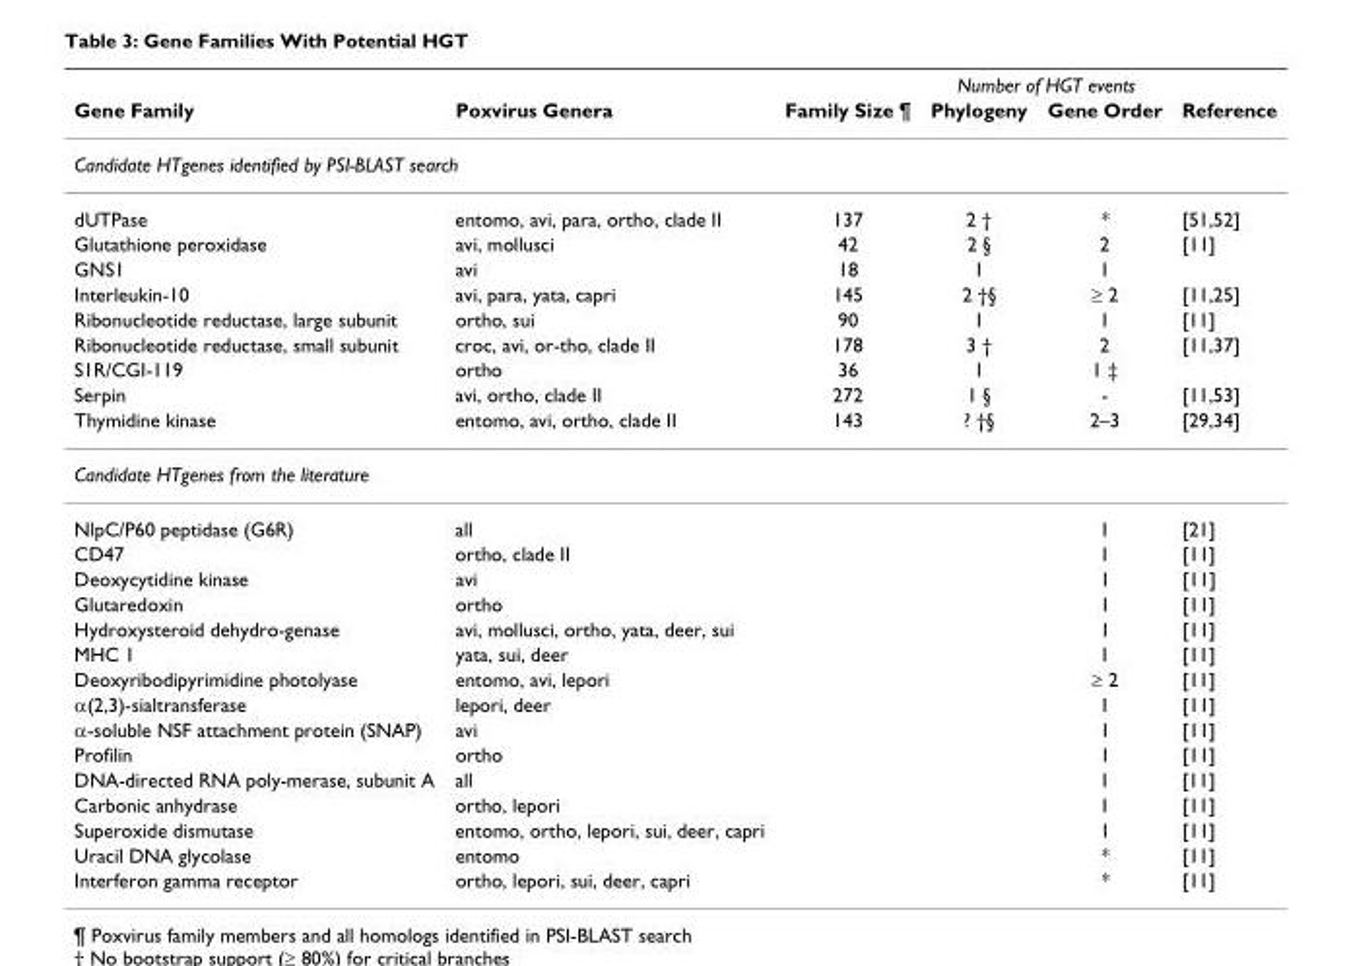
<table><thead><tr><td rowspan="2">Gene Family</td><td rowspan="2">Poxvirus Genera</td><td rowspan="2">Family Size ¶</td><td colspan="2">Number of HGT events</td><td rowspan="2">Reference</td></tr><tr><td>Phylogeny</td><td>Gene Order</td></tr></thead><tbody><tr><td colspan="6">Candidate HTgenes identified by PSI-BLAST search</td></tr><tr><td>dUTPase</td><td>entomo, avi, para, ortho, clade II</td><td>137</td><td>2 †</td><td>*</td><td>[51,52]</td></tr><tr><td>Glutathione peroxidase</td><td>avi, mollusci</td><td>42</td><td>2 §</td><td>2</td><td>[11]</td></tr><tr><td>GNS1</td><td>avi</td><td>18</td><td>1</td><td>1</td><td></td></tr><tr><td>Interleukin-10</td><td>avi, para, yata, capri</td><td>145</td><td>2 †§</td><td>≥ 2</td><td>[11,25]</td></tr><tr><td>Ribonucleotide reductase, large subunit</td><td>ortho, sui</td><td>90</td><td>1</td><td>1</td><td>[11]</td></tr><tr><td>Ribonucleotide reductase, small subunit</td><td>croc, avi, or-tho, clade II</td><td>178</td><td>3 †</td><td>2</td><td>[11,37]</td></tr><tr><td>S1R/CGI-119</td><td>ortho</td><td>36</td><td>1</td><td>1 ‡</td><td></td></tr><tr><td>Serpin</td><td>avi, ortho, clade II</td><td>272</td><td>1 §</td><td>-</td><td>[11,53]</td></tr><tr><td>Thymidine kinase</td><td>entomo, avi, ortho, clade II</td><td>143</td><td>? †§</td><td>2–3</td><td>[29,34]</td></tr><tr><td colspan="6">Candidate HTgenes from the literature</td></tr><tr><td>NlpC/P60 peptidase (G6R)</td><td>all</td><td></td><td></td><td>1</td><td>[21]</td></tr><tr><td>CD47</td><td>ortho, clade II</td><td></td><td></td><td>1</td><td>[11]</td></tr><tr><td>Deoxycytidine kinase</td><td>avi</td><td></td><td></td><td>1</td><td>[11]</td></tr><tr><td>Glutaredoxin</td><td>ortho</td><td></td><td></td><td>1</td><td>[11]</td></tr><tr><td>Hydroxysteroid dehydro-genase</td><td>avi, mollusci, ortho, yata, deer, sui</td><td></td><td></td><td>1</td><td>[11]</td></tr><tr><td>MHC 1</td><td>yata, sui, deer</td><td></td><td></td><td>1</td><td>[11]</td></tr><tr><td>Deoxyribodipyrimidine photolyase</td><td>entomo, avi, lepori</td><td></td><td></td><td>≥ 2</td><td>[11]</td></tr><tr><td>α(2,3)-sialtransferase</td><td>lepori, deer</td><td></td><td></td><td>1</td><td>[11]</td></tr><tr><td>α-soluble NSF attachment protein (SNAP)</td><td>avi</td><td></td><td></td><td>1</td><td>[11]</td></tr><tr><td>Profilin</td><td>ortho</td><td></td><td></td><td>1</td><td>[11]</td></tr><tr><td>DNA-directed RNA poly-merase, subunit A</td><td>all</td><td></td><td></td><td>1</td><td>[11]</td></tr><tr><td>Carbonic anhydrase</td><td>ortho, lepori</td><td></td><td></td><td>1</td><td>[11]</td></tr><tr><td>Superoxide dismutase</td><td>entomo, ortho, lepori, sui, deer, capri</td><td></td><td></td><td>1</td><td>[11]</td></tr><tr><td>Uracil DNA glycolase</td><td>entomo</td><td></td><td></td><td>*</td><td>[11]</td></tr><tr><td>Interferon gamma receptor</td><td>ortho, lepori, sui, deer, capri</td><td></td><td></td><td>*</td><td>[11]</td></tr></tbody></table>